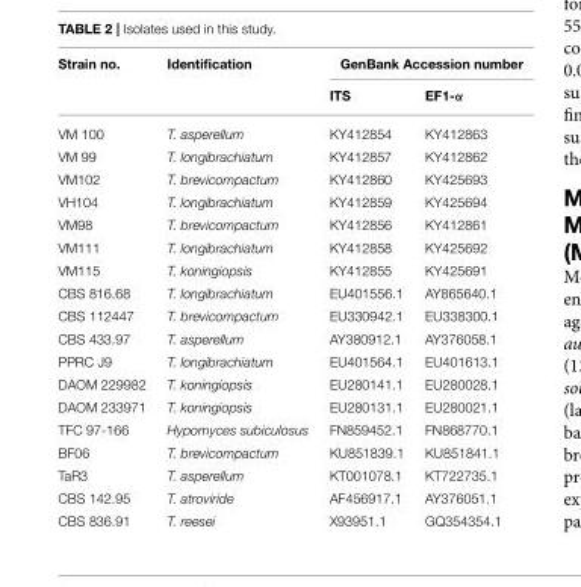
<table><thead><tr><td rowspan="2">Strain no.</td><td rowspan="2">Identification</td><td colspan="2">GenBank Accession number</td></tr><tr><td>ITS</td><td>EF1-α</td></tr></thead><tbody><tr><td>VM 100</td><td>T. asperellum</td><td>KY412854</td><td>KY412863</td></tr><tr><td>VM 99</td><td>T. longibrachiatum</td><td>KY412857</td><td>KY412862</td></tr><tr><td>VM102</td><td>T. brevicompactum</td><td>KY412860</td><td>KY425693</td></tr><tr><td>VH104</td><td>T. longibrachiatum</td><td>KY412859</td><td>KY425694</td></tr><tr><td>VM98</td><td>T. brevicompactum</td><td>KY412856</td><td>KY412861</td></tr><tr><td>VM111</td><td>T. longibrachiatum</td><td>KY412858</td><td>KY425692</td></tr><tr><td>VM115</td><td>T. koningiopsis</td><td>KY412855</td><td>KY425691</td></tr><tr><td>CBS 816.68</td><td>T. longibrachiatum</td><td>EU401556.1</td><td>AY865640.1</td></tr><tr><td>CBS 112447</td><td>T. brevicompactum</td><td>EU330942.1</td><td>EU338300.1</td></tr><tr><td>CBS 433.97</td><td>T. asperellum</td><td>AY380912.1</td><td>AY376058.1</td></tr><tr><td>PPRC J9</td><td>T. longibrachiatum</td><td>EU401564.1</td><td>EU401613.1</td></tr><tr><td>DAOM 229982</td><td>T. koningiopsis</td><td>EU280141.1</td><td>EU280028.1</td></tr><tr><td>DAOM 233971</td><td>T. koningiopsis</td><td>EU280131.1</td><td>EU280021.1</td></tr><tr><td>TFC 97-166</td><td>Hypomyces subiculosus</td><td>FN859452.1</td><td>FN868770.1</td></tr><tr><td>BF06</td><td>T. brevicompactum</td><td>KU851839.1</td><td>KU851841.1</td></tr><tr><td>TaR3</td><td>T. asperellum</td><td>KT001078.1</td><td>KT722735.1</td></tr><tr><td>CBS 142.95</td><td>T. atroviride</td><td>AF456917.1</td><td>AY376051.1</td></tr><tr><td>CBS 836.91</td><td>T. reesei</td><td>X93951.1</td><td>GQ354354.1</td></tr></tbody></table>